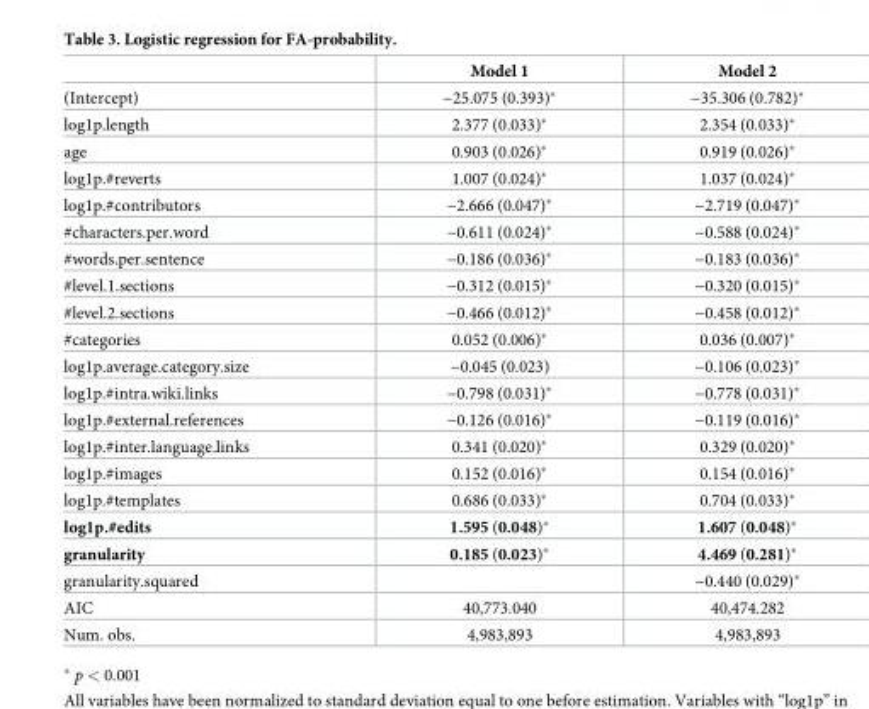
<table><thead><tr><td></td><td>Model 1</td><td>Model 2</td></tr></thead><tbody><tr><td>(Intercept)</td><td>−25.075 (0.393)*</td><td>−35.306 (0.782)*</td></tr><tr><td>log1p.length</td><td>2.377 (0.033)*</td><td>2.354 (0.033)*</td></tr><tr><td>age</td><td>0.903 (0.026)*</td><td>0.919 (0.026)*</td></tr><tr><td>log1p.#reverts</td><td>1.007 (0.024)*</td><td>1.037 (0.024)*</td></tr><tr><td>log1p.#contributors</td><td>−2.666 (0.047)*</td><td>−2.719 (0.047)*</td></tr><tr><td>#characters.per.word</td><td>−0.611 (0.024)*</td><td>−0.588 (0.024)*</td></tr><tr><td>#words.per.sentence</td><td>−0.186 (0.036)*</td><td>−0.183 (0.036)*</td></tr><tr><td>#level.1.sections</td><td>−0.312 (0.015)*</td><td>−0.320 (0.015)*</td></tr><tr><td>#level.2.sections</td><td>−0.466 (0.012)*</td><td>−0.458 (0.012)*</td></tr><tr><td>#categories</td><td>0.052 (0.006)*</td><td>0.036 (0.007)*</td></tr><tr><td>log1p.average.category.size</td><td>−0.045 (0.023)</td><td>−0.106 (0.023)*</td></tr><tr><td>log1p.#intra.wiki.links</td><td>−0.798 (0.031)*</td><td>−0.778 (0.031)*</td></tr><tr><td>log1p.#external.references</td><td>−0.126 (0.016)*</td><td>−0.119 (0.016)*</td></tr><tr><td>log1p.#inter.language.links</td><td>0.341 (0.020)*</td><td>0.329 (0.020)*</td></tr><tr><td>log1p.#images</td><td>0.152 (0.016)*</td><td>0.154 (0.016)*</td></tr><tr><td>log1p.#templates</td><td>0.686 (0.033)*</td><td>0.704 (0.033)*</td></tr><tr><td>log1p.#edits</td><td>1.595 (0.048)*</td><td>1.607 (0.048)*</td></tr><tr><td>granularity</td><td>0.185 (0.023)*</td><td>4.469 (0.281)*</td></tr><tr><td>granularity.squared</td><td></td><td>−0.440 (0.029)*</td></tr><tr><td>AIC</td><td>40,773.040</td><td>40,474.282</td></tr><tr><td>Num. obs.</td><td>4,983,893</td><td>4,983,893</td></tr></tbody></table>